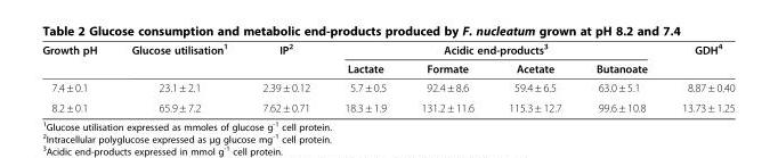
<table><thead><tr><td rowspan="2">Growth pH</td><td rowspan="2">Glucose utilisation<sup>1</sup></td><td rowspan="2">IP<sup>2</sup></td><td colspan="4">Acidic end-products<sup>3</sup></td><td rowspan="2">GDH<sup>4</sup></td></tr><tr><td>Lactate</td><td>Formate</td><td>Acetate</td><td>Butanoate</td></tr></thead><tbody><tr><td>7.4 ± 0.1</td><td>23.1 ± 2.1</td><td>2.39 ± 0.12</td><td>5.7 ± 0.5</td><td>92.4 ± 8.6</td><td>59.4 ± 6.5</td><td>63.0 ± 5.1</td><td>8.87 ± 0.40</td></tr><tr><td>8.2 ± 0.1</td><td>65.9 ± 7.2</td><td>7.62 ± 0.71</td><td>18.3 ± 1.9</td><td>131.2 ± 11.6</td><td>115.3 ± 12.7</td><td>99.6 ± 10.8</td><td>13.73 ± 1.25</td></tr></tbody></table>